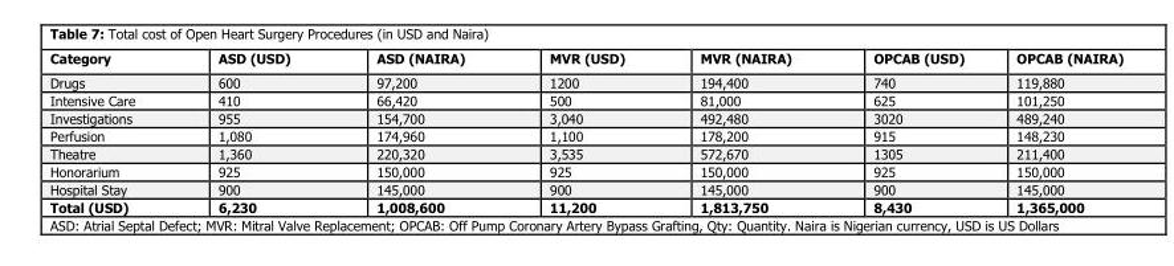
<table><thead><tr><td>Category</td><td>ASD (USD)</td><td>ASD (NAIRA)</td><td>MVR (USD)</td><td>MVR (NAIRA)</td><td>OPCAB (USD)</td><td>OPCAB (NAIRA)</td></tr></thead><tbody><tr><td>Drugs</td><td>600</td><td>97,200</td><td>1200</td><td>194,400</td><td>740</td><td>119,880</td></tr><tr><td>Intensive Care</td><td>410</td><td>66,420</td><td>500</td><td>81,000</td><td>625</td><td>101,250</td></tr><tr><td>Investigations</td><td>955</td><td>154,700</td><td>3,040</td><td>492,480</td><td>3020</td><td>489,240</td></tr><tr><td>Perfusion</td><td>1,080</td><td>174,960</td><td>1,100</td><td>178,200</td><td>915</td><td>148,230</td></tr><tr><td>Theatre</td><td>1,360</td><td>220,320</td><td>3,535</td><td>572,670</td><td>1305</td><td>211,400</td></tr><tr><td>Honorarium</td><td>925</td><td>150,000</td><td>925</td><td>150,000</td><td>925</td><td>150,000</td></tr><tr><td>Hospital Stay</td><td>900</td><td>145,000</td><td>900</td><td>145,000</td><td>900</td><td>145,000</td></tr><tr><td>Total (USD)</td><td>6,230</td><td>1,008,600</td><td>11,200</td><td>1,813,750</td><td>8,430</td><td>1,365,000</td></tr></tbody></table>